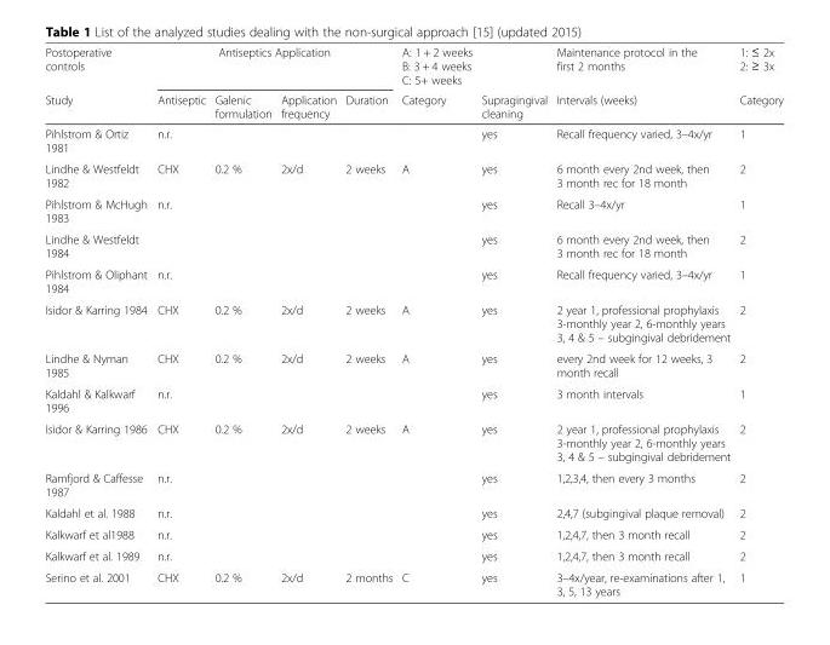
<table><thead><tr><td rowspan="2">Postoperative controls Study</td><td colspan="4">Antiseptics Application</td><td rowspan="2">A: 1 + 2 weeks B: 3 + 4 weeks C: 5+ weeks Category</td><td rowspan="2">Supragingival cleaning</td><td rowspan="2">Maintenance protocol in the first 2 months Intervals (weeks)</td><td rowspan="2">1: ≤ 2x 2: ≥ 3x Category</td></tr><tr><td>Antiseptic</td><td>Galenic formulation</td><td>Application frequency</td><td>Duration</td></tr></thead><tbody><tr><td>Pihlstrom &amp; Ortiz 1981</td><td>n.r.</td><td></td><td></td><td></td><td></td><td>yes</td><td>Recall frequency varied, 3–4x/yr</td><td>1</td></tr><tr><td>Lindhe &amp; Westfeldt 1982</td><td>CHX</td><td>0.2 %</td><td>2x/d</td><td>2 weeks</td><td>A</td><td>yes</td><td>6 month every 2nd week, then 3 month rec for 18 month</td><td>2</td></tr><tr><td>Pihlstrom &amp; McHugh 1983</td><td>n.r.</td><td></td><td></td><td></td><td></td><td>yes</td><td>Recall 3–4x/yr</td><td>1</td></tr><tr><td>Lindhe &amp; Westfeldt 1984</td><td></td><td></td><td></td><td></td><td></td><td>yes</td><td>6 month every 2nd week, then 3 month rec for 18 month</td><td>2</td></tr><tr><td>Pihlstrom &amp; Oliphant 1984</td><td>n.r.</td><td></td><td></td><td></td><td></td><td>yes</td><td>Recall frequency varied, 3–4x/yr</td><td>1</td></tr><tr><td>Isidor &amp; Karring 1984</td><td>CHX</td><td>0.2 %</td><td>2x/d</td><td>2 weeks</td><td>A</td><td>yes</td><td>2 year 1, professional prophylaxis 3-monthly year 2, 6-monthly years 3, 4 &amp; 5 – subgingival debridement</td><td>2</td></tr><tr><td>Lindhe &amp; Nyman 1985</td><td>CHX</td><td>0.2 %</td><td>2x/d</td><td>2 weeks</td><td>A</td><td>yes</td><td>every 2nd week for 12 weeks, 3 month recall</td><td>2</td></tr><tr><td>Kaldahl &amp; Kalkwarf 1996</td><td>n.r.</td><td></td><td></td><td></td><td></td><td>yes</td><td>3 month intervals</td><td>1</td></tr><tr><td>Isidor &amp; Karring 1986</td><td>CHX</td><td>0.2 %</td><td>2x/d</td><td>2 weeks</td><td>A</td><td>yes</td><td>2 year 1, professional prophylaxis 3-monthly year 2, 6-monthly years 3, 4 &amp; 5 – subgingival debridement</td><td>2</td></tr><tr><td>Ramfjord &amp; Caffesse 1987</td><td>n.r.</td><td></td><td></td><td></td><td></td><td>yes</td><td>1,2,3,4, then every 3 months</td><td>2</td></tr><tr><td>Kaldahl et al. 1988</td><td>n.r.</td><td></td><td></td><td></td><td></td><td>yes</td><td>2,4,7 (subgingival plaque removal)</td><td>2</td></tr><tr><td>Kalkwarf et al1988</td><td>n.r.</td><td></td><td></td><td></td><td></td><td>yes</td><td>1,2,4,7, then 3 month recall</td><td>2</td></tr><tr><td>Kalkwarf et al. 1989</td><td>n.r.</td><td></td><td></td><td></td><td></td><td>yes</td><td>1,2,4,7, then 3 month recall</td><td>2</td></tr><tr><td>Serino et al. 2001</td><td>CHX</td><td>0.2 %</td><td>2x/d</td><td>2 months</td><td>C</td><td>yes</td><td>3–4x/year, re-examinations after 1, 3, 5, 13 years</td><td>1</td></tr></tbody></table>